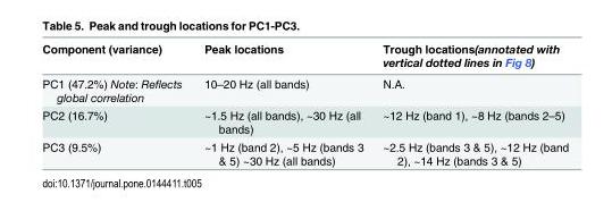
<table><thead><tr><td>Component (variance)</td><td>Peak locations</td><td>Trough locations(annotated with vertical dotted lines in Fig 8)</td></tr></thead><tbody><tr><td>PC1 (47.2%) Note: Reflects global correlation</td><td>10–20 Hz (all bands)</td><td>N.A.</td></tr><tr><td>PC2 (16.7%)</td><td>~1.5 Hz (all bands), ~30 Hz (all bands)</td><td>~12 Hz (band 1), ~8 Hz (bands 2–5)</td></tr><tr><td>PC3 (9.5%)</td><td>~1 Hz (band 2), ~5 Hz (bands 3 &amp; 5) ~30 Hz (all bands)</td><td>~2.5 Hz (bands 3 &amp; 5), ~12 Hz (band 2), ~14 Hz (bands 3 &amp; 5)</td></tr></tbody></table>